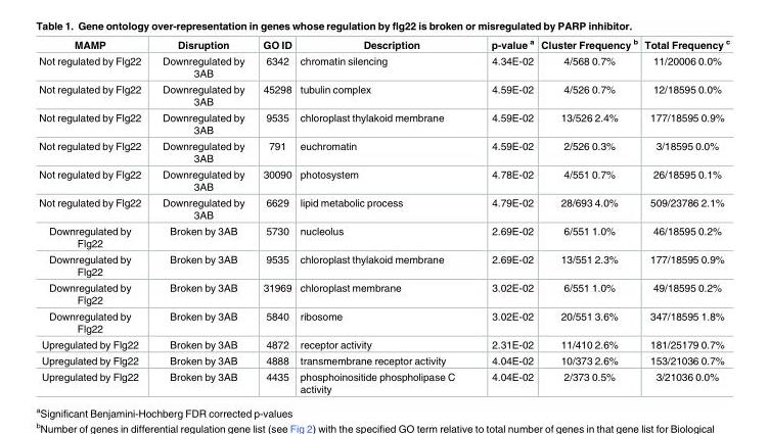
<table><thead><tr><td>MAMP</td><td>Disruption</td><td>GO ID</td><td>Description</td><td>p-value <sup>a</sup></td><td>Cluster Frequency <sup>b</sup></td><td>Total Frequency <sup>c</sup></td></tr></thead><tbody><tr><td>Not regulated by Flg22</td><td>Downregulated by 3AB</td><td>6342</td><td>chromatin silencing</td><td>4.34E-02</td><td>4/568 0.7%</td><td>11/20006 0.0%</td></tr><tr><td>Not regulated by Flg22</td><td>Downregulated by 3AB</td><td>45298</td><td>tubulin complex</td><td>4.59E-02</td><td>4/526 0.7%</td><td>12/18595 0.0%</td></tr><tr><td>Not regulated by Flg22</td><td>Downregulated by 3AB</td><td>9535</td><td>chloroplast thylakoid membrane</td><td>4.59E-02</td><td>13/526 2.4%</td><td>177/18595 0.9%</td></tr><tr><td>Not regulated by Flg22</td><td>Downregulated by 3AB</td><td>791</td><td>euchromatin</td><td>4.59E-02</td><td>2/526 0.3%</td><td>3/18595 0.0%</td></tr><tr><td>Not regulated by Flg22</td><td>Downregulated by 3AB</td><td>30090</td><td>photosystem</td><td>4.78E-02</td><td>4/551 0.7%</td><td>26/18595 0.1%</td></tr><tr><td>Not regulated by Flg22</td><td>Downregulated by 3AB</td><td>6629</td><td>lipid metabolic process</td><td>4.79E-02</td><td>28/693 4.0%</td><td>509/23786 2.1%</td></tr><tr><td>Downregulated by Flg22</td><td>Broken by 3AB</td><td>5730</td><td>nucleolus</td><td>2.69E-02</td><td>6/551 1.0%</td><td>46/18595 0.2%</td></tr><tr><td>Downregulated by Flg22</td><td>Broken by 3AB</td><td>9535</td><td>chloroplast thylakoid membrane</td><td>2.69E-02</td><td>13/551 2.3%</td><td>177/18595 0.9%</td></tr><tr><td>Downregulated by Flg22</td><td>Broken by 3AB</td><td>31969</td><td>chloroplast membrane</td><td>3.02E-02</td><td>6/551 1.0%</td><td>49/18595 0.2%</td></tr><tr><td>Downregulated by Flg22</td><td>Broken by 3AB</td><td>5840</td><td>ribosome</td><td>3.02E-02</td><td>20/551 3.6%</td><td>347/18595 1.8%</td></tr><tr><td>Upregulated by Flg22</td><td>Broken by 3AB</td><td>4872</td><td>receptor activity</td><td>2.31E-02</td><td>11/410 2.6%</td><td>181/25179 0.7%</td></tr><tr><td>Upregulated by Flg22</td><td>Broken by 3AB</td><td>4888</td><td>transmembrane receptor activity</td><td>4.04E-02</td><td>10/373 2.6%</td><td>153/21036 0.7%</td></tr><tr><td>Upregulated by Flg22</td><td>Broken by 3AB</td><td>4435</td><td>phosphoinositide phospholipase C activity</td><td>4.04E-02</td><td>2/373 0.5%</td><td>3/21036 0.0%</td></tr></tbody></table>